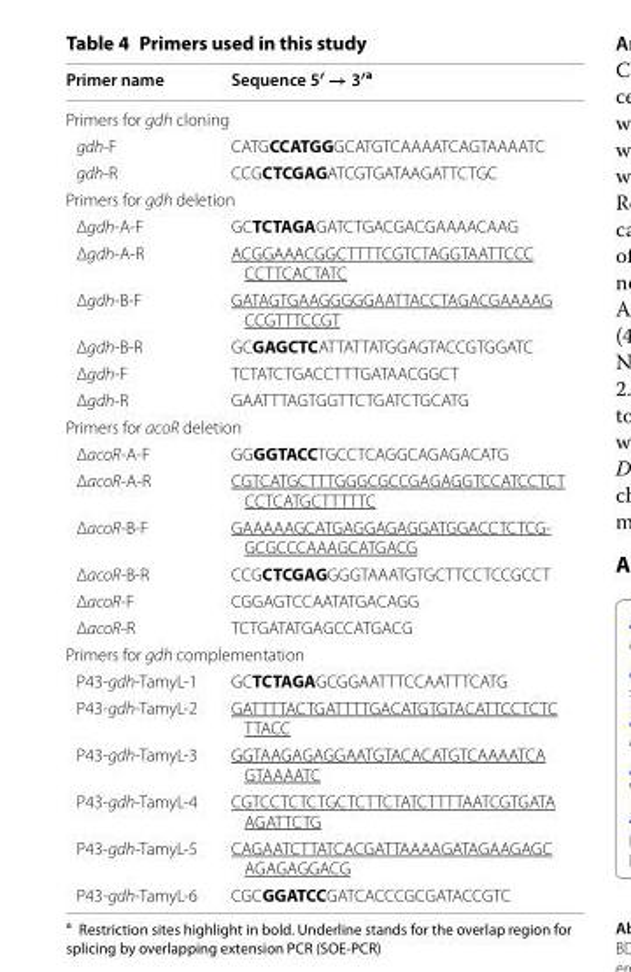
<table><thead><tr><td>Primer name</td><td>Sequence 5′ → 3′<sup>a</sup></td></tr></thead><tbody><tr><td colspan="2">Primers for gdh cloning</td></tr><tr><td>gdh-F</td><td>CATGCCATGGGCATGTCAAAATCAGTAAAATC</td></tr><tr><td>gdh-R</td><td>CCGCTCGAGATCGTGATAAGATTCTGC</td></tr><tr><td colspan="2">Primers for gdh deletion</td></tr><tr><td>Δgdh-A-F</td><td>GCTCTAGAGATCTGACGACGAAAACAAG</td></tr><tr><td>Δgdh-A-R</td><td>ACGGAAACGGCTTTTCGTCTAGGTAATTCCC CCTTCACTATC</td></tr><tr><td>Δgdh-B-F</td><td>GATAGTGAAGGGGGAATTACCTAGACGAAAAG CCGTTTCCGT</td></tr><tr><td>Δgdh-B-R</td><td>GCGAGCTCATTATTATGGAGTACCGTGGATC</td></tr><tr><td>Δgdh-F</td><td>TCTATCTGACCTTTGATAACGGCT</td></tr><tr><td>Δgdh-R</td><td>GAATTTAGTGGTTCTGATCTGCATG</td></tr><tr><td colspan="2">Primers for acoR deletion</td></tr><tr><td>ΔacoR-A-F</td><td>GGGGTACCTGCCTCAGGCAGAGACATG</td></tr><tr><td>ΔacoR-A-R</td><td>CGTCATGCTTTGGGCGCCGAGAGGTCCATCCTCT CCTCATGCTTTTTC</td></tr><tr><td>ΔacoR-B-F</td><td>GAAAAAGCATGAGGAGAGGATGGACCTCTCG- GCGCCCAAAGCATGACG</td></tr><tr><td>ΔacoR-B-R</td><td>CCGCTCGAGGGGTAAATGTGCTTCCTCCGCCT</td></tr><tr><td>ΔacoR-F</td><td>CGGAGTCCAATATGACAGG</td></tr><tr><td>ΔacoR-R</td><td>TCTGATATGAGCCATGACG</td></tr><tr><td colspan="2">Primers for gdh complementation</td></tr><tr><td>P43-gdh-TamyL-1</td><td>GCTCTAGAGCGGAATTTCCAATTTCATG</td></tr><tr><td>P43-gdh-TamyL-2</td><td>GATTTTACTGATTTTGACATGTGTACATTCCTCTC TTACC</td></tr><tr><td>P43-gdh-TamyL-3</td><td>GGTAAGAGAGGAATGTACACATGTCAAAATCA GTAAAATC</td></tr><tr><td>P43-gdh-TamyL-4</td><td>CGTCCTCTCTGCTCTTCTATCTTTTAATCGTGATA AGATTCTG</td></tr><tr><td>P43-gdh-TamyL-5</td><td>CAGAATCTTATCACGATTAAAAGATAGAAGAGC AGAGAGGACG</td></tr><tr><td>P43-gdh-TamyL-6</td><td>CGCGGATCCGATCACCCGCGATACCGTC</td></tr></tbody></table>